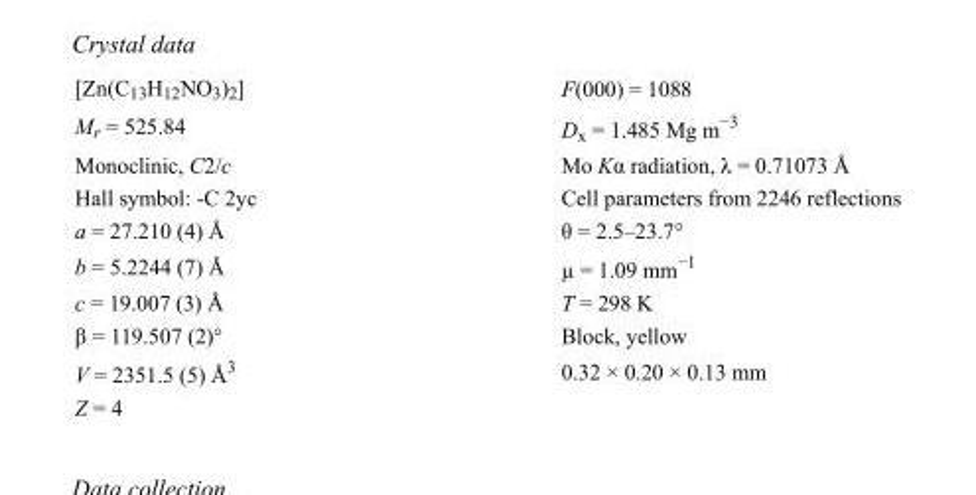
<table><tbody><tr><td>[Zn(C<sub>13</sub>H<sub>12</sub>NO<sub>3</sub>)<sub>2</sub>]</td><td>F(000) = 1088</td></tr><tr><td>M<sub>r</sub> = 525.84</td><td>D<sub>x</sub> = 1.485 Mg m<sup>−3</sup></td></tr><tr><td>Monoclinic, C2/c</td><td>Mo Kα radiation, λ = 0.71073 Å</td></tr><tr><td>Hall symbol: -C 2yc</td><td>Cell parameters from 2246 reflections</td></tr><tr><td>a = 27.210 (4) Å</td><td>θ = 2.5–23.7°</td></tr><tr><td>b = 5.2244 (7) Å</td><td>µ = 1.09 mm<sup>−1</sup></td></tr><tr><td>c = 19.007 (3) Å</td><td>T = 298 K</td></tr><tr><td>β = 119.507 (2)°</td><td>Block, yellow</td></tr><tr><td>V = 2351.5 (5) Å<sup>3</sup></td><td>0.32 × 0.20 × 0.13 mm</td></tr><tr><td>Z = 4</td><td></td></tr></tbody></table>